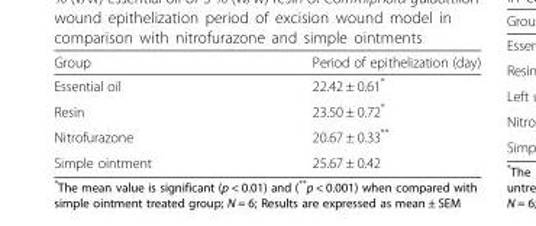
<table><thead><tr><td>Group</td><td>Period of epithelization (day)</td></tr></thead><tbody><tr><td>Essential oil</td><td>22.42 ± 0.61*</td></tr><tr><td>Resin</td><td>23.50 ± 0.72*</td></tr><tr><td>Nitrofurazone</td><td>20.67 ± 0.33**</td></tr><tr><td>Simple ointment</td><td>25.67 ± 0.42</td></tr></tbody></table>